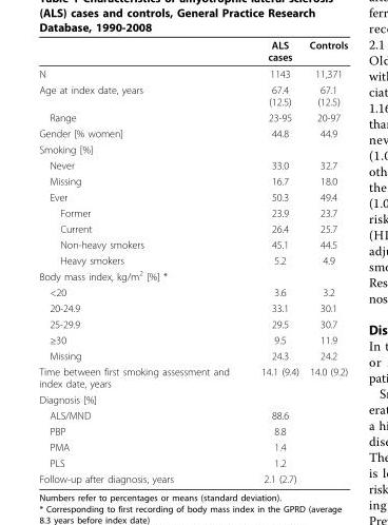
<table><thead><tr><td></td><td>ALS cases</td><td>Controls</td></tr></thead><tbody><tr><td>N</td><td>1143</td><td>11,371</td></tr><tr><td>Age at index date, years</td><td>67.4 (12.5)</td><td>67.1 (12.5)</td></tr><tr><td>Range</td><td>23-95</td><td>20-97</td></tr><tr><td>Gender [% women]</td><td>44.8</td><td>44.9</td></tr><tr><td colspan="3">Smoking [%]</td></tr><tr><td>Never</td><td>33.0</td><td>32.7</td></tr><tr><td>Missing</td><td>16.7</td><td>18.0</td></tr><tr><td>Ever</td><td>50.3</td><td>49.4</td></tr><tr><td>Former</td><td>23.9</td><td>23.7</td></tr><tr><td>Current</td><td>26.4</td><td>25.7</td></tr><tr><td>Non-heavy smokers</td><td>45.1</td><td>44.5</td></tr><tr><td>Heavy smokers</td><td>5.2</td><td>4.9</td></tr><tr><td colspan="3">Body mass index, kg/m<sup>2</sup> [%] *</td></tr><tr><td>&lt;20</td><td>3.6</td><td>3.2</td></tr><tr><td>20-24.9</td><td>33.1</td><td>30.1</td></tr><tr><td>25-29.9</td><td>29.5</td><td>30.7</td></tr><tr><td>≥30</td><td>9.5</td><td>11.9</td></tr><tr><td>Missing</td><td>24.3</td><td>24.2</td></tr><tr><td>Time between first smoking assessment and index date, years</td><td>14.1 (9.4)</td><td>14.0 (9.2)</td></tr><tr><td colspan="3">Diagnosis [%]</td></tr><tr><td>ALS/MND</td><td>88.6</td><td></td></tr><tr><td>PBP</td><td>8.8</td><td></td></tr><tr><td>PMA</td><td>1.4</td><td></td></tr><tr><td>PLS</td><td>1.2</td><td></td></tr><tr><td>Follow-up after diagnosis, years</td><td>2.1 (2.7)</td><td></td></tr></tbody></table>